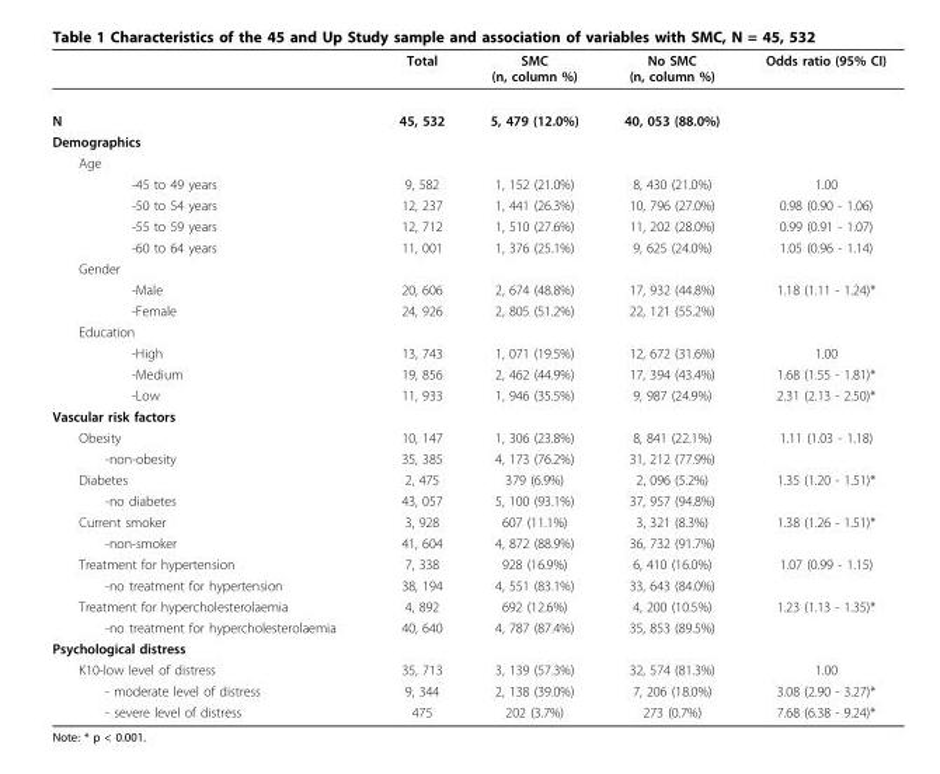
<table><thead><tr><td></td><td>Total</td><td>SMC (n, column %)</td><td>No SMC (n, column %)</td><td>Odds ratio (95% CI)</td></tr></thead><tbody><tr><td>N</td><td>45, 532</td><td>5, 479 (12.0%)</td><td>40, 053 (88.0%)</td><td></td></tr><tr><td colspan="5">Demographics</td></tr><tr><td colspan="5">Age</td></tr><tr><td>-45 to 49 years</td><td>9, 582</td><td>1, 152 (21.0%)</td><td>8, 430 (21.0%)</td><td>1.00</td></tr><tr><td>-50 to 54 years</td><td>12, 237</td><td>1, 441 (26.3%)</td><td>10, 796 (27.0%)</td><td>0.98 (0.90 - 1.06)</td></tr><tr><td>-55 to 59 years</td><td>12, 712</td><td>1, 510 (27.6%)</td><td>11, 202 (28.0%)</td><td>0.99 (0.91 - 1.07)</td></tr><tr><td>-60 to 64 years</td><td>11, 001</td><td>1, 376 (25.1%)</td><td>9, 625 (24.0%)</td><td>1.05 (0.96 - 1.14)</td></tr><tr><td colspan="5">Gender</td></tr><tr><td>-Male</td><td>20, 606</td><td>2, 674 (48.8%)</td><td>17, 932 (44.8%)</td><td>1.18 (1.11 - 1.24)*</td></tr><tr><td>-Female</td><td>24, 926</td><td>2, 805 (51.2%)</td><td>22, 121 (55.2%)</td><td></td></tr><tr><td colspan="5">Education</td></tr><tr><td>-High</td><td>13, 743</td><td>1, 071 (19.5%)</td><td>12, 672 (31.6%)</td><td>1.00</td></tr><tr><td>-Medium</td><td>19, 856</td><td>2, 462 (44.9%)</td><td>17, 394 (43.4%)</td><td>1.68 (1.55 - 1.81)*</td></tr><tr><td>-Low</td><td>11, 933</td><td>1, 946 (35.5%)</td><td>9, 987 (24.9%)</td><td>2.31 (2.13 - 2.50)*</td></tr><tr><td colspan="5">Vascular risk factors</td></tr><tr><td>Obesity</td><td>10, 147</td><td>1, 306 (23.8%)</td><td>8, 841 (22.1%)</td><td>1.11 (1.03 - 1.18)</td></tr><tr><td>-non-obesity</td><td>35, 385</td><td>4, 173 (76.2%)</td><td>31, 212 (77.9%)</td><td></td></tr><tr><td>Diabetes</td><td>2, 475</td><td>379 (6.9%)</td><td>2, 096 (5.2%)</td><td>1.35 (1.20 - 1.51)*</td></tr><tr><td>-no diabetes</td><td>43, 057</td><td>5, 100 (93.1%)</td><td>37, 957 (94.8%)</td><td></td></tr><tr><td>Current smoker</td><td>3, 928</td><td>607 (11.1%)</td><td>3, 321 (8.3%)</td><td>1.38 (1.26 - 1.51)*</td></tr><tr><td>-non-smoker</td><td>41, 604</td><td>4, 872 (88.9%)</td><td>36, 732 (91.7%)</td><td></td></tr><tr><td>Treatment for hypertension</td><td>7, 338</td><td>928 (16.9%)</td><td>6, 410 (16.0%)</td><td>1.07 (0.99 - 1.15)</td></tr><tr><td>-no treatment for hypertension</td><td>38, 194</td><td>4, 551 (83.1%)</td><td>33, 643 (84.0%)</td><td></td></tr><tr><td>Treatment for hypercholesterolaemia</td><td>4, 892</td><td>692 (12.6%)</td><td>4, 200 (10.5%)</td><td>1.23 (1.13 - 1.35)*</td></tr><tr><td>-no treatment for hypercholesterolaemia</td><td>40, 640</td><td>4, 787 (87.4%)</td><td>35, 853 (89.5%)</td><td></td></tr><tr><td colspan="5">Psychological distress</td></tr><tr><td>K10-low level of distress</td><td>35, 713</td><td>3, 139 (57.3%)</td><td>32, 574 (81.3%)</td><td>1.00</td></tr><tr><td>- moderate level of distress</td><td>9, 344</td><td>2, 138 (39.0%)</td><td>7, 206 (18.0%)</td><td>3.08 (2.90 - 3.27)*</td></tr><tr><td>- severe level of distress</td><td>475</td><td>202 (3.7%)</td><td>273 (0.7%)</td><td>7.68 (6.38 - 9.24)*</td></tr></tbody></table>